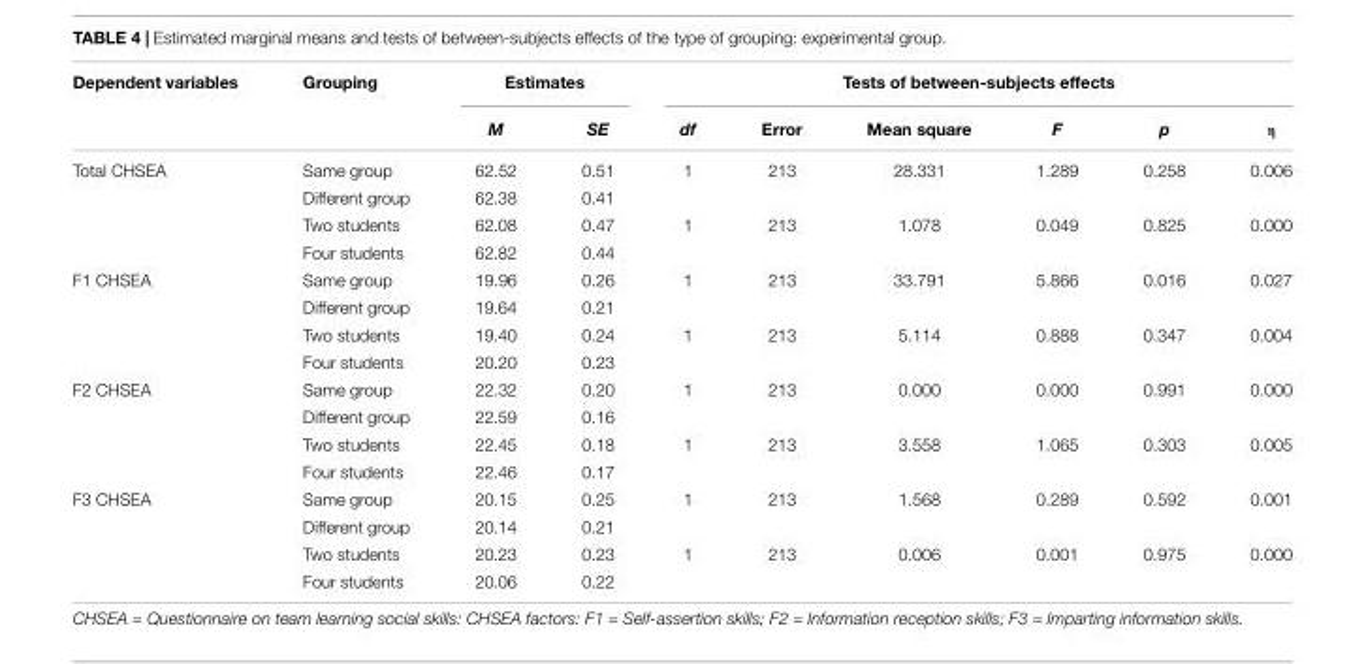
<table><thead><tr><td rowspan="2">Dependent variables</td><td rowspan="2">Grouping</td><td colspan="2">Estimates</td><td colspan="6">Tests of between-subjects effects</td></tr><tr><td>M</td><td>SE</td><td>df</td><td>Error</td><td>Mean square</td><td>F</td><td>p</td><td>η</td></tr></thead><tbody><tr><td rowspan="4">Total CHSEA</td><td>Same group</td><td>62.52</td><td>0.51</td><td>1</td><td>213</td><td>28.331</td><td>1.289</td><td>0.258</td><td>0.006</td></tr><tr><td>Different group</td><td>62.38</td><td>0.41</td><td></td><td></td><td></td><td></td><td></td><td></td></tr><tr><td>Two students</td><td>62.08</td><td>0.47</td><td>1</td><td>213</td><td>1.078</td><td>0.049</td><td>0.825</td><td>0.000</td></tr><tr><td>Four students</td><td>62.82</td><td>0.44</td><td></td><td></td><td></td><td></td><td></td><td></td></tr><tr><td rowspan="4">F1 CHSEA</td><td>Same group</td><td>19.96</td><td>0.26</td><td>1</td><td>213</td><td>33.791</td><td>5.866</td><td>0.016</td><td>0.027</td></tr><tr><td>Different group</td><td>19.64</td><td>0.21</td><td></td><td></td><td></td><td></td><td></td><td></td></tr><tr><td>Two students</td><td>19.40</td><td>0.24</td><td>1</td><td>213</td><td>5.114</td><td>0.888</td><td>0.347</td><td>0.004</td></tr><tr><td>Four students</td><td>20.20</td><td>0.23</td><td></td><td></td><td></td><td></td><td></td><td></td></tr><tr><td rowspan="4">F2 CHSEA</td><td>Same group</td><td>22.32</td><td>0.20</td><td>1</td><td>213</td><td>0.000</td><td>0.000</td><td>0.991</td><td>0.000</td></tr><tr><td>Different group</td><td>22.59</td><td>0.16</td><td></td><td></td><td></td><td></td><td></td><td></td></tr><tr><td>Two students</td><td>22.45</td><td>0.18</td><td>1</td><td>213</td><td>3.558</td><td>1.065</td><td>0.303</td><td>0.005</td></tr><tr><td>Four students</td><td>22.46</td><td>0.17</td><td></td><td></td><td></td><td></td><td></td><td></td></tr><tr><td rowspan="4">F3 CHSEA</td><td>Same group</td><td>20.15</td><td>0.25</td><td>1</td><td>213</td><td>1.568</td><td>0.289</td><td>0.592</td><td>0.001</td></tr><tr><td>Different group</td><td>20.14</td><td>0.21</td><td></td><td></td><td></td><td></td><td></td><td></td></tr><tr><td>Two students</td><td>20.23</td><td>0.23</td><td>1</td><td>213</td><td>0.006</td><td>0.001</td><td>0.975</td><td>0.000</td></tr><tr><td>Four students</td><td>20.06</td><td>0.22</td><td></td><td></td><td></td><td></td><td></td><td></td></tr></tbody></table>